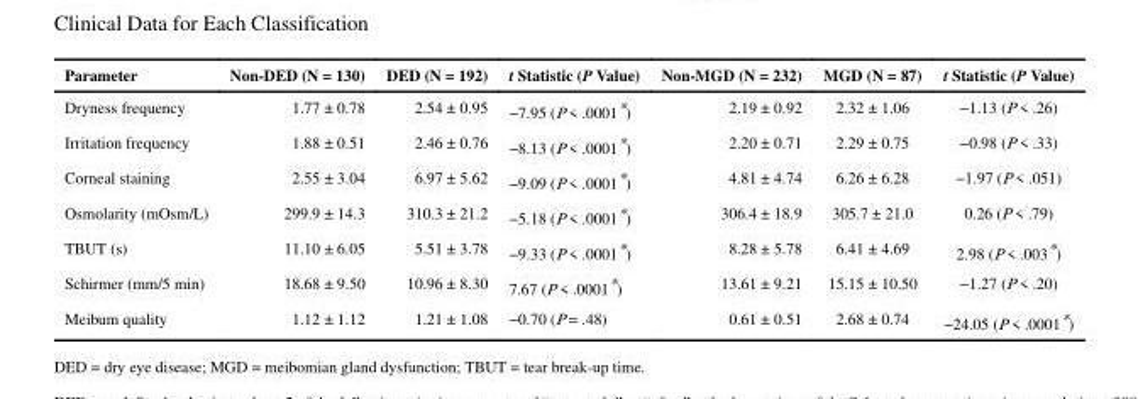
<table><thead><tr><td>Parameter</td><td>Non-DED (N = 130)</td><td>DED (N = 192)</td><td>t Statistic (P Value)</td><td>Non-MGD (N = 232)</td><td>MGD (N = 87)</td><td>t Statistic (P Value)</td></tr></thead><tbody><tr><td>Dryness frequency</td><td>1.77 ± 0.78</td><td>2.54 ± 0.95</td><td>−7.95 (P &lt; .0001*)</td><td>2.19 ± 0.92</td><td>2.32 ± 1.06</td><td>−1.13 (P &lt; .26)</td></tr><tr><td>Irritation frequency</td><td>1.88 ± 0.51</td><td>2.46 ± 0.76</td><td>−8.13 (P &lt; .0001*)</td><td>2.20 ± 0.71</td><td>2.29 ± 0.75</td><td>−0.98 (P &lt; .33)</td></tr><tr><td>Corneal staining</td><td>2.55 ± 3.04</td><td>6.97 ± 5.62</td><td>−9.09 (P &lt; .0001*)</td><td>4.81 ± 4.74</td><td>6.26 ± 6.28</td><td>−1.97 (P &lt; .051)</td></tr><tr><td>Osmolarity (mOsm/L)</td><td>299.9 ± 14.3</td><td>310.3 ± 21.2</td><td>−5.18 (P &lt; .0001*)</td><td>306.4 ± 18.9</td><td>305.7 ± 21.0</td><td>0.26 (P &lt; .79)</td></tr><tr><td>TBUT (s)</td><td>11.10 ± 6.05</td><td>5.51 ± 3.78</td><td>−9.33 (P &lt; .0001*)</td><td>8.28 ± 5.78</td><td>6.41 ± 4.69</td><td>2.98 (P &lt; .003*)</td></tr><tr><td>Schirmer (mm/5 min)</td><td>18.68 ± 9.50</td><td>10.96 ± 8.30</td><td>7.67 (P &lt; .0001*)</td><td>13.61 ± 9.21</td><td>15.15 ± 10.50</td><td>−1.27 (P &lt; .20)</td></tr><tr><td>Meibum quality</td><td>1.12 ± 1.12</td><td>1.21 ± 1.08</td><td>−0.70 (P = .48)</td><td>0.61 ± 0.51</td><td>2.68 ± 0.74</td><td>−24.05 (P &lt; .0001*)</td></tr></tbody></table>